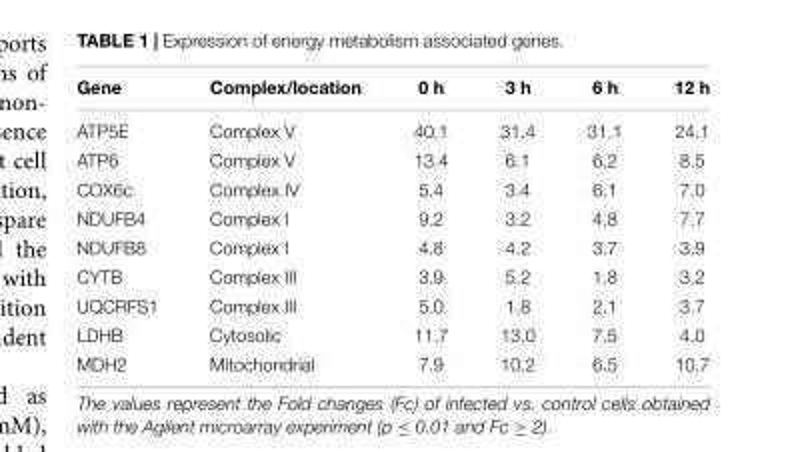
<table><thead><tr><td>Gene</td><td>Complex/location</td><td>0 h</td><td>3 h</td><td>6 h</td><td>12 h</td></tr></thead><tbody><tr><td>ATP5E</td><td>Complex V</td><td>40.1</td><td>31.4</td><td>31.1</td><td>24.1</td></tr><tr><td>ATP6</td><td>Complex V</td><td>13.4</td><td>6.1</td><td>6.2</td><td>8.5</td></tr><tr><td>COX6c</td><td>Complex IV</td><td>5.4</td><td>3.4</td><td>6.1</td><td>7.0</td></tr><tr><td>NDUFB4</td><td>Complex I</td><td>9.2</td><td>3.2</td><td>4.8</td><td>7.7</td></tr><tr><td>NDUFB8</td><td>Complex I</td><td>4.8</td><td>4.2</td><td>3.7</td><td>3.9</td></tr><tr><td>CYTB</td><td>Complex III</td><td>3.9</td><td>5.2</td><td>1.8</td><td>3.2</td></tr><tr><td>UQCRFS1</td><td>Complex III</td><td>5.0</td><td>1.8</td><td>2.1</td><td>3.7</td></tr><tr><td>LDHB</td><td>Cytosolic</td><td>11.7</td><td>13.0</td><td>7.5</td><td>4.0</td></tr><tr><td>MDH2</td><td>Mitochondrial</td><td>7.9</td><td>10.2</td><td>6.5</td><td>10.7</td></tr></tbody></table>